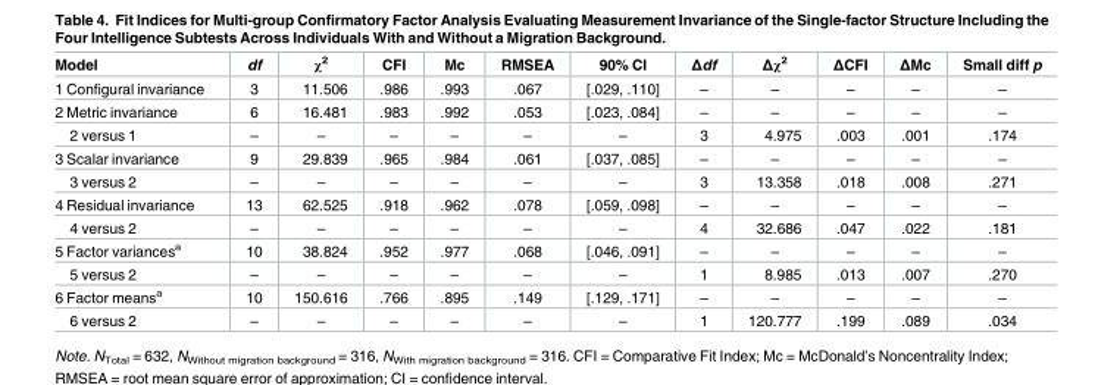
<table><thead><tr><td>Model</td><td>df</td><td>χ<sup>2</sup></td><td>CFI</td><td>Mc</td><td>RMSEA</td><td>90% CI</td><td>Δdf</td><td>Δχ<sup>2</sup></td><td>ΔCFI</td><td>ΔMc</td><td>Small diff p</td></tr></thead><tbody><tr><td>1 Configural invariance</td><td>3</td><td>11.506</td><td>.986</td><td>.993</td><td>.067</td><td>[.029, .110]</td><td>–</td><td>–</td><td>–</td><td>–</td><td>–</td></tr><tr><td>2 Metric invariance</td><td>6</td><td>16.481</td><td>.983</td><td>.992</td><td>.053</td><td>[.023, .084]</td><td>–</td><td>–</td><td>–</td><td>–</td><td>–</td></tr><tr><td>2 versus 1</td><td>–</td><td>–</td><td>–</td><td>–</td><td>–</td><td>–</td><td>3</td><td>4.975</td><td>.003</td><td>.001</td><td>.174</td></tr><tr><td>3 Scalar invariance</td><td>9</td><td>29.839</td><td>.965</td><td>.984</td><td>.061</td><td>[.037, .085]</td><td>–</td><td>–</td><td>–</td><td>–</td><td>–</td></tr><tr><td>3 versus 2</td><td>–</td><td>–</td><td>–</td><td>–</td><td>–</td><td>–</td><td>3</td><td>13.358</td><td>.018</td><td>.008</td><td>.271</td></tr><tr><td>4 Residual invariance</td><td>13</td><td>62.525</td><td>.918</td><td>.962</td><td>.078</td><td>[.059, .098]</td><td>–</td><td>–</td><td>–</td><td>–</td><td>–</td></tr><tr><td>4 versus 2</td><td>–</td><td>–</td><td>–</td><td>–</td><td>–</td><td>–</td><td>4</td><td>32.686</td><td>.047</td><td>.022</td><td>.181</td></tr><tr><td>5 Factor variances<sup>a</sup></td><td>10</td><td>38.824</td><td>.952</td><td>.977</td><td>.068</td><td>[.046, .091]</td><td>–</td><td>–</td><td>–</td><td>–</td><td>–</td></tr><tr><td>5 versus 2</td><td>–</td><td>–</td><td>–</td><td>–</td><td>–</td><td>–</td><td>1</td><td>8.985</td><td>.013</td><td>.007</td><td>.270</td></tr><tr><td>6 Factor means<sup>a</sup></td><td>10</td><td>150.616</td><td>.766</td><td>.895</td><td>.149</td><td>[.129, .171]</td><td>–</td><td>–</td><td>–</td><td>–</td><td>–</td></tr><tr><td>6 versus 2</td><td>–</td><td>–</td><td>–</td><td>–</td><td>–</td><td>–</td><td>1</td><td>120.777</td><td>.199</td><td>.089</td><td>.034</td></tr></tbody></table>